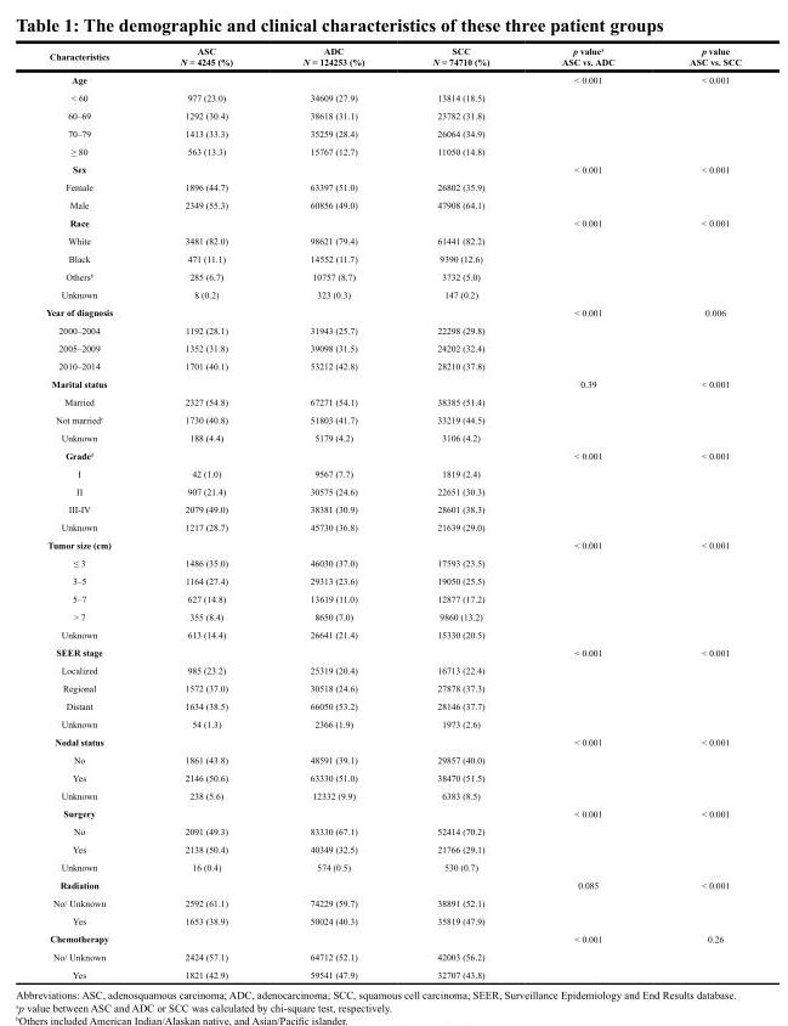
<table><thead><tr><td>Characteristics</td><td>ASC N = 4245 (%)</td><td>ADC N = 124253 (%)</td><td>SCC N = 74710 (%)</td><td>p value<sup>a</sup> ASC vs. ADC</td><td>p value ASC vs. SCC</td></tr></thead><tbody><tr><td>Age</td><td></td><td></td><td></td><td>&lt; 0.001</td><td>&lt; 0.001</td></tr><tr><td>&lt; 60</td><td>977 (23.0)</td><td>34609 (27.9)</td><td>13814 (18.5)</td><td></td><td></td></tr><tr><td>60–69</td><td>1292 (30.4)</td><td>38618 (31.1)</td><td>23782 (31.8)</td><td></td><td></td></tr><tr><td>70–79</td><td>1413 (33.3)</td><td>35259 (28.4)</td><td>26064 (34.9)</td><td></td><td></td></tr><tr><td>≥ 80</td><td>563 (13.3)</td><td>15767 (12.7)</td><td>11050 (14.8)</td><td></td><td></td></tr><tr><td>Sex</td><td></td><td></td><td></td><td>&lt; 0.001</td><td>&lt; 0.001</td></tr><tr><td>Female</td><td>1896 (44.7)</td><td>63397 (51.0)</td><td>26802 (35.9)</td><td></td><td></td></tr><tr><td>Male</td><td>2349 (55.3)</td><td>60856 (49.0)</td><td>47908 (64.1)</td><td></td><td></td></tr><tr><td>Race</td><td></td><td></td><td></td><td>&lt; 0.001</td><td>&lt; 0.001</td></tr><tr><td>White</td><td>3481 (82.0)</td><td>98621 (79.4)</td><td>61441 (82.2)</td><td></td><td></td></tr><tr><td>Black</td><td>471 (11.1)</td><td>14552 (11.7)</td><td>9390 (12.6)</td><td></td><td></td></tr><tr><td>Others<sup>b</sup></td><td>285 (6.7)</td><td>10757 (8.7)</td><td>3732 (5.0)</td><td></td><td></td></tr><tr><td>Unknown</td><td>8 (0.2)</td><td>323 (0.3)</td><td>147 (0.2)</td><td></td><td></td></tr><tr><td>Year of diagnosis</td><td></td><td></td><td></td><td>&lt; 0.001</td><td>0.006</td></tr><tr><td>2000–2004</td><td>1192 (28.1)</td><td>31943 (25.7)</td><td>22298 (29.8)</td><td></td><td></td></tr><tr><td>2005–2009</td><td>1352 (31.8)</td><td>39098 (31.5)</td><td>24202 (32.4)</td><td></td><td></td></tr><tr><td>2010–2014</td><td>1701 (40.1)</td><td>53212 (42.8)</td><td>28210 (37.8)</td><td></td><td></td></tr><tr><td>Marital status</td><td></td><td></td><td></td><td>0.39</td><td>&lt; 0.001</td></tr><tr><td>Married</td><td>2327 (54.8)</td><td>67271 (54.1)</td><td>38385 (51.4)</td><td></td><td></td></tr><tr><td>Not married<sup>c</sup></td><td>1730 (40.8)</td><td>51803 (41.7)</td><td>33219 (44.5)</td><td></td><td></td></tr><tr><td>Unknown</td><td>188 (4.4)</td><td>5179 (4.2)</td><td>3106 (4.2)</td><td></td><td></td></tr><tr><td>Grade<sup>d</sup></td><td></td><td></td><td></td><td>&lt; 0.001</td><td>&lt; 0.001</td></tr><tr><td>I</td><td>42 (1.0)</td><td>9567 (7.7)</td><td>1819 (2.4)</td><td></td><td></td></tr><tr><td>II</td><td>907 (21.4)</td><td>30575 (24.6)</td><td>22651 (30.3)</td><td></td><td></td></tr><tr><td>III-IV</td><td>2079 (49.0)</td><td>38381 (30.9)</td><td>28601 (38.3)</td><td></td><td></td></tr><tr><td>Unknown</td><td>1217 (28.7)</td><td>45730 (36.8)</td><td>21639 (29.0)</td><td></td><td></td></tr><tr><td>Tumor size (cm)</td><td></td><td></td><td></td><td>&lt; 0.001</td><td>&lt; 0.001</td></tr><tr><td>≤ 3</td><td>1486 (35.0)</td><td>46030 (37.0)</td><td>17593 (23.5)</td><td></td><td></td></tr><tr><td>3–5</td><td>1164 (27.4)</td><td>29313 (23.6)</td><td>19050 (25.5)</td><td></td><td></td></tr><tr><td>5–7</td><td>627 (14.8)</td><td>13619 (11.0)</td><td>12877 (17.2)</td><td></td><td></td></tr><tr><td>&gt; 7</td><td>355 (8.4)</td><td>8650 (7.0)</td><td>9860 (13.2)</td><td></td><td></td></tr><tr><td>Unknown</td><td>613 (14.4)</td><td>26641 (21.4)</td><td>15330 (20.5)</td><td></td><td></td></tr><tr><td>SEER stage</td><td></td><td></td><td></td><td>&lt; 0.001</td><td>&lt; 0.001</td></tr><tr><td>Localized</td><td>985 (23.2)</td><td>25319 (20.4)</td><td>16713 (22.4)</td><td></td><td></td></tr><tr><td>Regional</td><td>1572 (37.0)</td><td>30518 (24.6)</td><td>27878 (37.3)</td><td></td><td></td></tr><tr><td>Distant</td><td>1634 (38.5)</td><td>66050 (53.2)</td><td>28146 (37.7)</td><td></td><td></td></tr><tr><td>Unknown</td><td>54 (1.3)</td><td>2366 (1.9)</td><td>1973 (2.6)</td><td></td><td></td></tr><tr><td>Nodal status</td><td></td><td></td><td></td><td>&lt; 0.001</td><td>&lt; 0.001</td></tr><tr><td>No</td><td>1861 (43.8)</td><td>48591 (39.1)</td><td>29857 (40.0)</td><td></td><td></td></tr><tr><td>Yes</td><td>2146 (50.6)</td><td>63330 (51.0)</td><td>38470 (51.5)</td><td></td><td></td></tr><tr><td>Unknown</td><td>238 (5.6)</td><td>12332 (9.9)</td><td>6383 (8.5)</td><td></td><td></td></tr><tr><td>Surgery</td><td></td><td></td><td></td><td>&lt; 0.001</td><td>&lt; 0.001</td></tr><tr><td>No</td><td>2091 (49.3)</td><td>83330 (67.1)</td><td>52414 (70.2)</td><td></td><td></td></tr><tr><td>Yes</td><td>2138 (50.4)</td><td>40349 (32.5)</td><td>21766 (29.1)</td><td></td><td></td></tr><tr><td>Unknown</td><td>16 (0.4)</td><td>574 (0.5)</td><td>530 (0.7)</td><td></td><td></td></tr><tr><td>Radiation</td><td></td><td></td><td></td><td>0.085</td><td>&lt; 0.001</td></tr><tr><td>No/ Unknown</td><td>2592 (61.1)</td><td>74229 (59.7)</td><td>38891 (52.1)</td><td></td><td></td></tr><tr><td>Yes</td><td>1653 (38.9)</td><td>50024 (40.3)</td><td>35819 (47.9)</td><td></td><td></td></tr><tr><td>Chemotherapy</td><td></td><td></td><td></td><td>&lt; 0.001</td><td>0.26</td></tr><tr><td>No/ Unknown</td><td>2424 (57.1)</td><td>64712 (52.1)</td><td>42003 (56.2)</td><td></td><td></td></tr><tr><td>Yes</td><td>1821 (42.9)</td><td>59541 (47.9)</td><td>32707 (43.8)</td><td></td><td></td></tr></tbody></table>